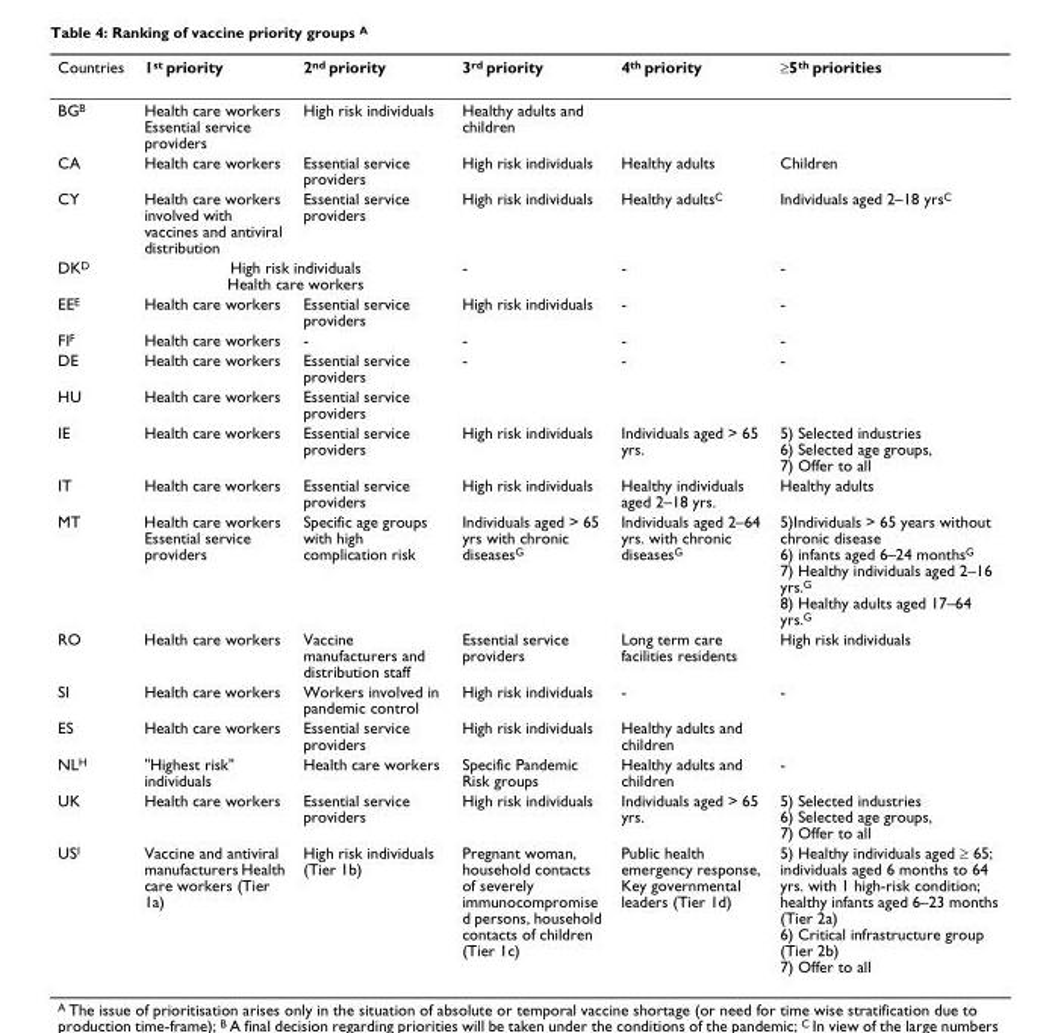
<table><thead><tr><td>Countries</td><td>1<sup>st</sup> priority</td><td>2<sup>nd</sup> priority</td><td>3<sup>rd</sup> priority</td><td>4<sup>th</sup> priority</td><td>≥5<sup>th</sup> priorities</td></tr></thead><tbody><tr><td>BG<sup>B</sup></td><td>Health care workers Essential service providers</td><td>High risk individuals</td><td>Healthy adults and children</td><td></td><td></td></tr><tr><td>CA</td><td>Health care workers</td><td>Essential service providers</td><td>High risk individuals</td><td>Healthy adults</td><td>Children</td></tr><tr><td>CY</td><td>Health care workers involved with vaccines and antiviral distribution</td><td>Essential service providers</td><td>High risk individuals</td><td>Healthy adults<sup>C</sup></td><td>Individuals aged 2–18 yrs<sup>C</sup></td></tr><tr><td>DK<sup>D</sup></td><td colspan="2">High risk individuals Health care workers</td><td>-</td><td>-</td><td>-</td></tr><tr><td>EE<sup>E</sup></td><td>Health care workers</td><td>Essential service providers</td><td>High risk individuals</td><td>-</td><td>-</td></tr><tr><td>FI<sup>F</sup></td><td>Health care workers</td><td>-</td><td>-</td><td>-</td><td>-</td></tr><tr><td>DE</td><td>Health care workers</td><td>Essential service providers</td><td>-</td><td>-</td><td>-</td></tr><tr><td>HU</td><td>Health care workers</td><td>Essential service providers</td><td></td><td></td><td></td></tr><tr><td>IE</td><td>Health care workers</td><td>Essential service providers</td><td>High risk individuals</td><td>Individuals aged &gt; 65 yrs.</td><td>5) Selected industries 6) Selected age groups, 7) Offer to all</td></tr><tr><td>IT</td><td>Health care workers</td><td>Essential service providers</td><td>High risk individuals</td><td>Healthy individuals aged 2–18 yrs.</td><td>Healthy adults</td></tr><tr><td>MT</td><td>Health care workers Essential service providers</td><td>Specific age groups with high complication risk</td><td>Individuals aged &gt; 65 yrs with chronic diseases<sup>G</sup></td><td>Individuals aged 2–64 yrs. with chronic diseases<sup>G</sup></td><td>5)Individuals &gt; 65 years without chronic disease 6) infants aged 6–24 months<sup>G</sup> 7) Healthy individuals aged 2–16 yrs.<sup>G</sup> 8) Healthy adults aged 17–64 yrs.<sup>G</sup></td></tr><tr><td>RO</td><td>Health care workers</td><td>Vaccine manufacturers and distribution staff</td><td>Essential service providers</td><td>Long term care facilities residents</td><td>High risk individuals</td></tr><tr><td>SI</td><td>Health care workers</td><td>Workers involved in pandemic control</td><td>High risk individuals</td><td>-</td><td>-</td></tr><tr><td>ES</td><td>Health care workers</td><td>Essential service providers</td><td>High risk individuals</td><td>Healthy adults and children</td><td></td></tr><tr><td>NL<sup>H</sup></td><td>&quot;Highest risk&quot; individuals</td><td>Health care workers</td><td>Specific Pandemic Risk groups</td><td>Healthy adults and children</td><td>-</td></tr><tr><td>UK</td><td>Health care workers</td><td>Essential service providers</td><td>High risk individuals</td><td>Individuals aged &gt; 65 yrs.</td><td>5) Selected industries 6) Selected age groups, 7) Offer to all</td></tr><tr><td>US<sup>I</sup></td><td>Vaccine and antiviral manufacturers Health care workers (Tier 1a)</td><td>High risk individuals (Tier 1b)</td><td>Pregnant woman, household contacts of severely immunocompromise d persons, household contacts of children (Tier 1c)</td><td>Public health emergency response, Key governmental leaders (Tier 1d)</td><td>5) Healthy individuals aged ≥ 65; individuals aged 6 months to 64 yrs. with 1 high-risk condition; healthy infants aged 6–23 months (Tier 2a) 6) Critical infrastructure group (Tier 2b) 7) Offer to all</td></tr></tbody></table>